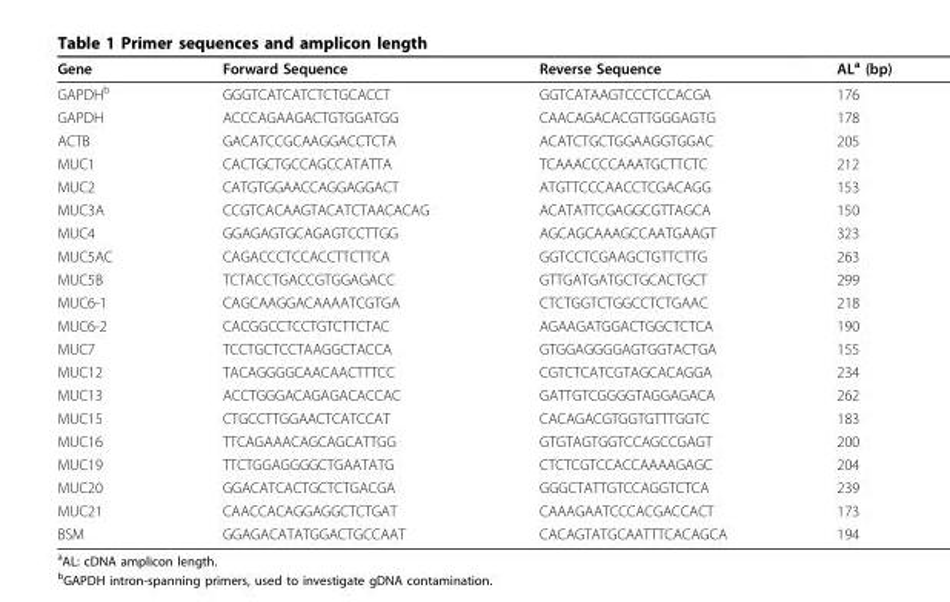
<table><thead><tr><td>Gene</td><td>Forward Sequence</td><td>Reverse Sequence</td><td>AL<sup>a</sup> (bp)</td></tr></thead><tbody><tr><td>GAPDH<sup>b</sup></td><td>GGGTCATCATCTCTGCACCT</td><td>GGTCATAAGTCCCTCCACGA</td><td>176</td></tr><tr><td>GAPDH</td><td>ACCCAGAAGACTGTGGATGG</td><td>CAACAGACACGTTGGGAGTG</td><td>178</td></tr><tr><td>ACTB</td><td>GACATCCGCAAGGACCTCTA</td><td>ACATCTGCTGGAAGGTGGAC</td><td>205</td></tr><tr><td>MUC1</td><td>CACTGCTGCCAGCCATATTA</td><td>TCAAACCCCAAATGCTTCTC</td><td>212</td></tr><tr><td>MUC2</td><td>CATGTGGAACCAGGAGGACT</td><td>ATGTTCCCAACCTCGACAGG</td><td>153</td></tr><tr><td>MUC3A</td><td>CCGTCACAAGTACATCTAACACAG</td><td>ACATATTCGAGGCGTTAGCA</td><td>150</td></tr><tr><td>MUC4</td><td>GGAGAGTGCAGAGTCCTTGG</td><td>AGCAGCAAAGCCAATGAAGT</td><td>323</td></tr><tr><td>MUC5AC</td><td>CAGACCCTCCACCTTCTTCA</td><td>GGTCCTCGAAGCTGTTCTTG</td><td>263</td></tr><tr><td>MUC5B</td><td>TCTACCTGACCGTGGAGACC</td><td>GTTGATGATGCTGCACTGCT</td><td>299</td></tr><tr><td>MUC6-1</td><td>CAGCAAGGACAAAATCGTGA</td><td>CTCTGGTCTGGCCTCTGAAC</td><td>218</td></tr><tr><td>MUC6-2</td><td>CACGGCCTCCTGTCTTCTAC</td><td>AGAAGATGGACTGGCTCTCA</td><td>190</td></tr><tr><td>MUC7</td><td>TCCTGCTCCTAAGGCTACCA</td><td>GTGGAGGGGAGTGGTACTGA</td><td>155</td></tr><tr><td>MUC12</td><td>TACAGGGGCAACAACTTTCC</td><td>CGTCTCATCGTAGCACAGGA</td><td>234</td></tr><tr><td>MUC13</td><td>ACCTGGGACAGAGACACCAC</td><td>GATTGTCGGGGTAGGAGACA</td><td>262</td></tr><tr><td>MUC15</td><td>CTGCCTTGGAACTCATCCAT</td><td>CACAGACGTGGTGTTTGGTC</td><td>183</td></tr><tr><td>MUC16</td><td>TTCAGAAACAGCAGCATTGG</td><td>GTGTAGTGGTCCAGCCGAGT</td><td>200</td></tr><tr><td>MUC19</td><td>TTCTGGAGGGGCTGAATATG</td><td>CTCTCGTCCACCAAAAGAGC</td><td>204</td></tr><tr><td>MUC20</td><td>GGACATCACTGCTCTGACGA</td><td>GGGCTATTGTCCAGGTCTCA</td><td>239</td></tr><tr><td>MUC21</td><td>CAACCACAGGAGGCTCTGAT</td><td>CAAAGAATCCCACGACCACT</td><td>173</td></tr><tr><td>BSM</td><td>GGAGACATATGGACTGCCAAT</td><td>CACAGTATGCAATTTCACAGCA</td><td>194</td></tr></tbody></table>